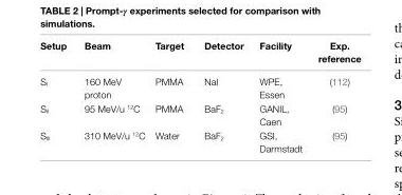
<table><thead><tr><td>setup</td><td>Beam</td><td>Target</td><td>Detector</td><td>Facility</td><td>exp. reference</td></tr></thead><tbody><tr><td>S<sub>I</sub></td><td>160 MeV proton</td><td>PMMA</td><td>NaI</td><td>WPE, Essen</td><td>(112)</td></tr><tr><td>S<sub>II</sub></td><td>95 MeV/u <sup>12</sup>C</td><td>PMMA</td><td>BaF<sub>2</sub></td><td>GANIL, Caen</td><td>(95)</td></tr><tr><td>S<sub>III</sub></td><td>310 MeV/u <sup>12</sup>C</td><td>Water</td><td>BaF<sub>2</sub></td><td>GSI, Darmstadt</td><td>(95)</td></tr></tbody></table>